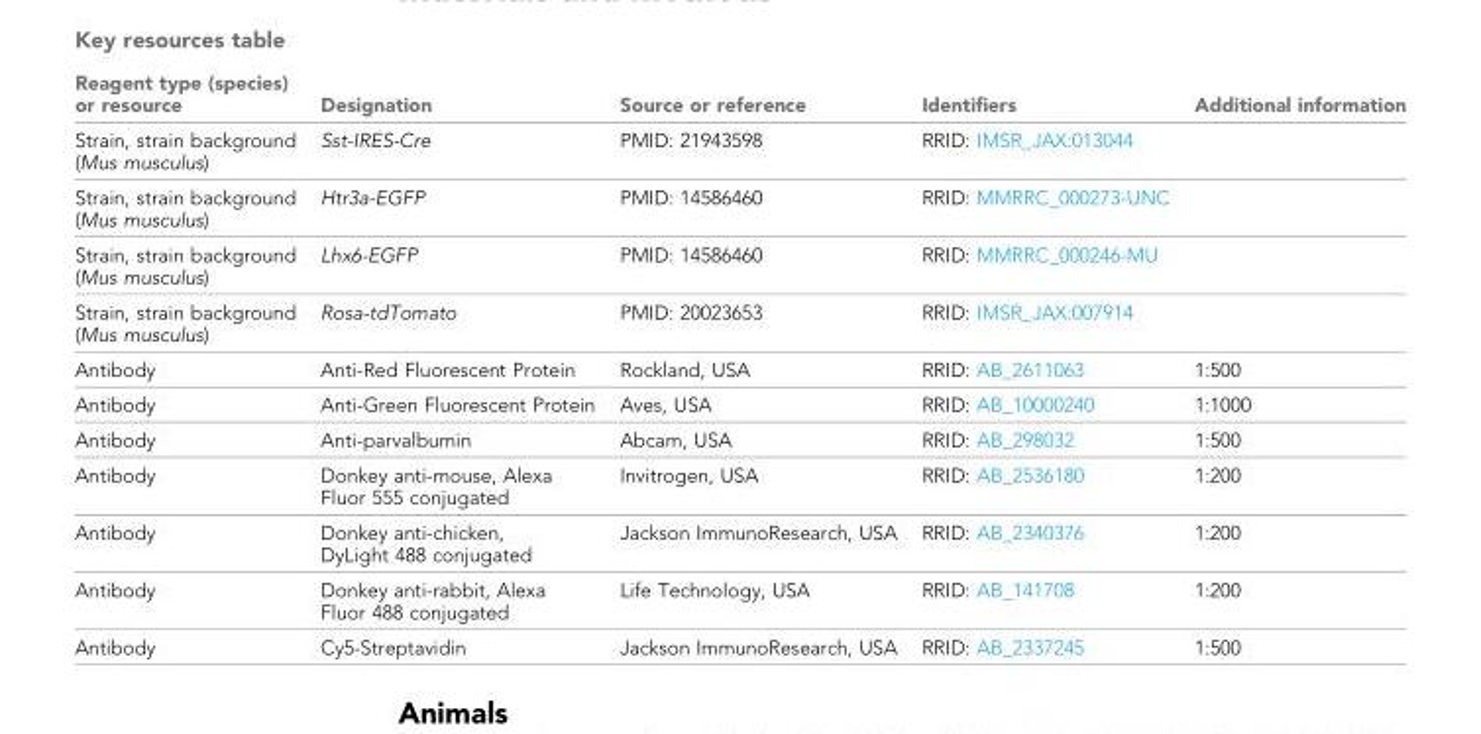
<table><thead><tr><td>Reagent type (species) or resource</td><td>Designation</td><td>Source or reference</td><td>Identifiers</td><td>Additional information</td></tr></thead><tbody><tr><td>Strain, strain background (Mus musculus)</td><td>Sst-IRES-Cre</td><td>PMID: 21943598</td><td>RRID: IMSR_JAX:013044</td><td></td></tr><tr><td>Strain, strain background (Mus musculus)</td><td>Htr3a-EGFP</td><td>PMID: 14586460</td><td>RRID: MMRRC_000273-UNC</td><td></td></tr><tr><td>Strain, strain background (Mus musculus)</td><td>Lhx6-EGFP</td><td>PMID: 14586460</td><td>RRID: MMRRC_000246-MU</td><td></td></tr><tr><td>Strain, strain background (Mus musculus)</td><td>Rosa-tdTomato</td><td>PMID: 20023653</td><td>RRID: IMSR_JAX:007914</td><td></td></tr><tr><td>Antibody</td><td>Anti-Red Fluorescent Protein</td><td>Rockland, USA</td><td>RRID: AB_2611063</td><td>1:500</td></tr><tr><td>Antibody</td><td>Anti-Green Fluorescent Protein</td><td>Aves, USA</td><td>RRID: AB_10000240</td><td>1:1000</td></tr><tr><td>Antibody</td><td>Anti-parvalbumin</td><td>Abcam, USA</td><td>RRID: AB_298032</td><td>1:500</td></tr><tr><td>Antibody</td><td>Donkey anti-mouse, Alexa Fluor 555 conjugated</td><td>Invitrogen, USA</td><td>RRID: AB_2536180</td><td>1:200</td></tr><tr><td>Antibody</td><td>Donkey anti-chicken, DyLight 488 conjugated</td><td>Jackson ImmunoResearch, USA</td><td>RRID: AB_2340376</td><td>1:200</td></tr><tr><td>Antibody</td><td>Donkey anti-rabbit, Alexa Fluor 488 conjugated</td><td>Life Technology, USA</td><td>RRID: AB_141708</td><td>1:200</td></tr><tr><td>Antibody</td><td>Cy5-Streptavidin</td><td>Jackson ImmunoResearch, USA</td><td>RRID: AB_2337245</td><td>1:500</td></tr></tbody></table>